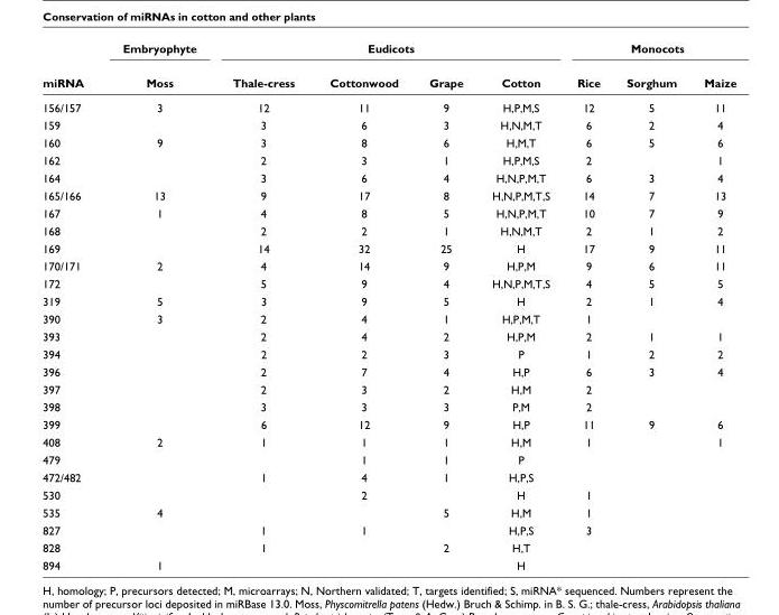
<table><thead><tr><td rowspan="2">miRNA</td><td rowspan="2">Embryophyte Moss</td><td colspan="4">Eudicots</td><td colspan="3">Monocots</td></tr><tr><td>Thale-cress</td><td>Cottonwood</td><td>Grape</td><td>Cotton</td><td>Rice</td><td>Sorghum</td><td>Maize</td></tr></thead><tbody><tr><td>156/157</td><td>3</td><td>12</td><td>11</td><td>9</td><td>H,P,M,S</td><td>12</td><td>5</td><td>11</td></tr><tr><td>159</td><td></td><td>3</td><td>6</td><td>3</td><td>H,N,M,T</td><td>6</td><td>2</td><td>4</td></tr><tr><td>160</td><td>9</td><td>3</td><td>8</td><td>6</td><td>H,M,T</td><td>6</td><td>5</td><td>6</td></tr><tr><td>162</td><td></td><td>2</td><td>3</td><td>1</td><td>H,P,M,S</td><td>2</td><td></td><td>1</td></tr><tr><td>164</td><td></td><td>3</td><td>6</td><td>4</td><td>H,N,P,M,T</td><td>6</td><td>3</td><td>4</td></tr><tr><td>165/166</td><td>13</td><td>9</td><td>17</td><td>8</td><td>H,N,P,M,T,S</td><td>14</td><td>7</td><td>13</td></tr><tr><td>167</td><td>1</td><td>4</td><td>8</td><td>5</td><td>H,N,P,M,T</td><td>10</td><td>7</td><td>9</td></tr><tr><td>168</td><td></td><td>2</td><td>2</td><td>1</td><td>H,N,M,T</td><td>2</td><td>1</td><td>2</td></tr><tr><td>169</td><td></td><td>14</td><td>32</td><td>25</td><td>H</td><td>17</td><td>9</td><td>11</td></tr><tr><td>170/171</td><td>2</td><td>4</td><td>14</td><td>9</td><td>H,P,M</td><td>9</td><td>6</td><td>11</td></tr><tr><td>172</td><td></td><td>5</td><td>9</td><td>4</td><td>H,N,P,M,T,S</td><td>4</td><td>5</td><td>5</td></tr><tr><td>319</td><td>5</td><td>3</td><td>9</td><td>5</td><td>H</td><td>2</td><td>1</td><td>4</td></tr><tr><td>390</td><td>3</td><td>2</td><td>4</td><td>1</td><td>H,P,M,T</td><td>1</td><td></td><td></td></tr><tr><td>393</td><td></td><td>2</td><td>4</td><td>2</td><td>H,P,M</td><td>2</td><td>1</td><td>1</td></tr><tr><td>394</td><td></td><td>2</td><td>2</td><td>3</td><td>P</td><td>1</td><td>2</td><td>2</td></tr><tr><td>396</td><td></td><td>2</td><td>7</td><td>4</td><td>H,P</td><td>6</td><td>3</td><td>4</td></tr><tr><td>397</td><td></td><td>2</td><td>3</td><td>2</td><td>H,M</td><td>2</td><td></td><td></td></tr><tr><td>398</td><td></td><td>3</td><td>3</td><td>3</td><td>P,M</td><td>2</td><td></td><td></td></tr><tr><td>399</td><td></td><td>6</td><td>12</td><td>9</td><td>H,P</td><td>11</td><td>9</td><td>6</td></tr><tr><td>408</td><td>2</td><td>1</td><td>1</td><td>1</td><td>H,M</td><td>1</td><td></td><td>1</td></tr><tr><td>479</td><td></td><td></td><td>1</td><td>1</td><td>P</td><td></td><td></td><td></td></tr><tr><td>472/482</td><td></td><td>1</td><td>4</td><td>1</td><td>H,P,S</td><td></td><td></td><td></td></tr><tr><td>530</td><td></td><td></td><td>2</td><td></td><td>H</td><td>1</td><td></td><td></td></tr><tr><td>535</td><td>4</td><td></td><td></td><td>5</td><td>H,M</td><td>1</td><td></td><td></td></tr><tr><td>827</td><td></td><td>1</td><td>1</td><td></td><td>H,P,S</td><td>3</td><td></td><td></td></tr><tr><td>828</td><td></td><td>1</td><td></td><td>2</td><td>H,T</td><td></td><td></td><td></td></tr><tr><td>894</td><td>1</td><td></td><td></td><td></td><td>H</td><td></td><td></td><td></td></tr></tbody></table>